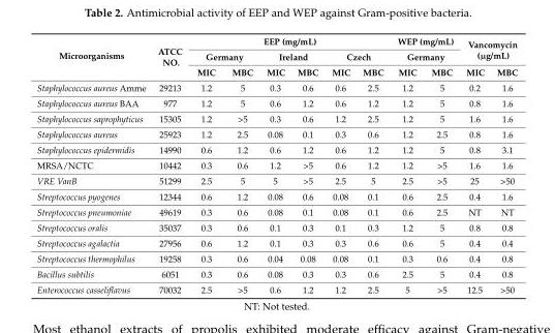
<table><thead><tr><td rowspan="3">Microorganisms</td><td rowspan="3">ATCC NO.</td><td colspan="6">EEP (mg/mL)</td><td rowspan="2" colspan="2">WEP (mg/mL) Germany</td><td rowspan="2" colspan="2">Vancomycin (µg/mL)</td></tr><tr><td colspan="2">Germany</td><td colspan="2">Ireland</td><td colspan="2">Czech</td></tr><tr><td>MIC</td><td>MBC</td><td>MIC</td><td>MBC</td><td>MIC</td><td>MBC</td><td>MIC</td><td>MBC</td><td>MIC</td><td>MBC</td></tr></thead><tbody><tr><td>Staphylococcus aureus Amme</td><td>29213</td><td>1.2</td><td>5</td><td>0.3</td><td>0.6</td><td>0.6</td><td>2.5</td><td>1.2</td><td>5</td><td>0.2</td><td>1.6</td></tr><tr><td>Staphylococcus aureus BAA</td><td>977</td><td>1.2</td><td>5</td><td>0.6</td><td>1.2</td><td>0.6</td><td>1.2</td><td>1.2</td><td>5</td><td>0.8</td><td>1.6</td></tr><tr><td>Staphylococcus saprophyticus</td><td>15305</td><td>1.2</td><td>&gt;5</td><td>0.3</td><td>0.6</td><td>1.2</td><td>2.5</td><td>1.2</td><td>5</td><td>1.6</td><td>1.6</td></tr><tr><td>Staphylococcus aureus</td><td>25923</td><td>1.2</td><td>2.5</td><td>0.08</td><td>0.1</td><td>0.3</td><td>0.6</td><td>1.2</td><td>2.5</td><td>0.8</td><td>1.6</td></tr><tr><td>Staphylococcus epidermidis</td><td>14990</td><td>0.6</td><td>1.2</td><td>0.6</td><td>1.2</td><td>0.6</td><td>1.2</td><td>1.2</td><td>5</td><td>0.8</td><td>3.1</td></tr><tr><td>MRSA/NCTC</td><td>10442</td><td>0.3</td><td>0.6</td><td>1.2</td><td>&gt;5</td><td>0.6</td><td>1.2</td><td>1.2</td><td>&gt;5</td><td>1.6</td><td>1.6</td></tr><tr><td>VRE VanB</td><td>51299</td><td>2.5</td><td>5</td><td>5</td><td>&gt;5</td><td>2.5</td><td>5</td><td>2.5</td><td>&gt;5</td><td>25</td><td>&gt;50</td></tr><tr><td>Streptococcus pyogenes</td><td>12344</td><td>0.6</td><td>1.2</td><td>0.08</td><td>0.6</td><td>0.08</td><td>0.1</td><td>0.6</td><td>2.5</td><td>0.4</td><td>1.6</td></tr><tr><td>Streptococcus pneumoniae</td><td>49619</td><td>0.3</td><td>0.6</td><td>0.08</td><td>0.1</td><td>0.08</td><td>0.1</td><td>0.6</td><td>2.5</td><td>NT</td><td>NT</td></tr><tr><td>Streptococcus oralis</td><td>35037</td><td>0.3</td><td>0.6</td><td>0.1</td><td>0.3</td><td>0.1</td><td>0.3</td><td>1.2</td><td>5</td><td>0.8</td><td>0.8</td></tr><tr><td>Streptococcus agalactia</td><td>27956</td><td>0.6</td><td>1.2</td><td>0.1</td><td>0.3</td><td>0.3</td><td>0.6</td><td>0.6</td><td>5</td><td>0.4</td><td>0.4</td></tr><tr><td>Streptococcus thermophilus</td><td>19258</td><td>0.3</td><td>0.6</td><td>0.04</td><td>0.08</td><td>0.08</td><td>0.1</td><td>0.3</td><td>0.6</td><td>0.4</td><td>0.8</td></tr><tr><td>Bacillus subtilis</td><td>6051</td><td>0.3</td><td>0.6</td><td>0.08</td><td>0.3</td><td>0.3</td><td>0.6</td><td>2.5</td><td>5</td><td>0.4</td><td>0.8</td></tr><tr><td>Enterococcus casseliflavus</td><td>70032</td><td>2.5</td><td>&gt;5</td><td>0.6</td><td>1.2</td><td>1.2</td><td>2.5</td><td>5</td><td>&gt;5</td><td>12.5</td><td>&gt;50</td></tr></tbody></table>